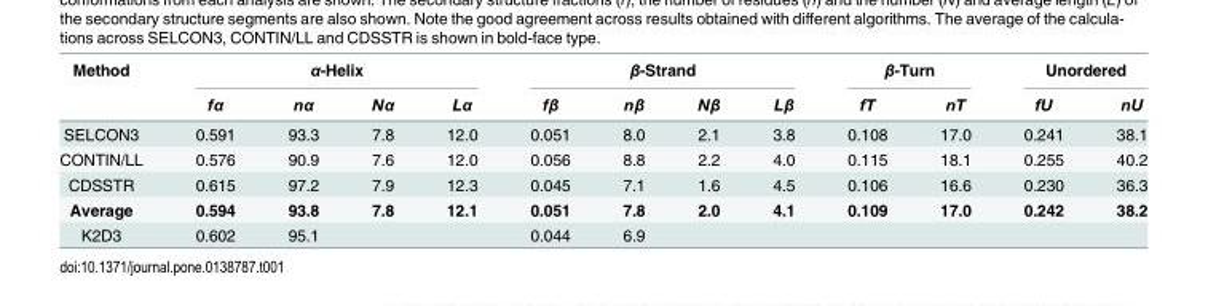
<table><thead><tr><td rowspan="2">Method</td><td colspan="4">α-Helix</td><td colspan="4">β-Strand</td><td colspan="2">β-Turn</td><td colspan="2">Unordered</td></tr><tr><td>fα</td><td>nα</td><td>Nα</td><td>Lα</td><td>fβ</td><td>nβ</td><td>Nβ</td><td>Lβ</td><td>fT</td><td>nT</td><td>fU</td><td>nU</td></tr></thead><tbody><tr><td>SELCON3</td><td>0.591</td><td>93.3</td><td>7.8</td><td>12.0</td><td>0.051</td><td>8.0</td><td>2.1</td><td>3.8</td><td>0.108</td><td>17.0</td><td>0.241</td><td>38.1</td></tr><tr><td>CONTIN/LL</td><td>0.576</td><td>90.9</td><td>7.6</td><td>12.0</td><td>0.056</td><td>8.8</td><td>2.2</td><td>4.0</td><td>0.115</td><td>18.1</td><td>0.255</td><td>40.2</td></tr><tr><td>CDSSTR</td><td>0.615</td><td>97.2</td><td>7.9</td><td>12.3</td><td>0.045</td><td>7.1</td><td>1.6</td><td>4.5</td><td>0.106</td><td>16.6</td><td>0.230</td><td>36.3</td></tr><tr><td>Average</td><td>0.594</td><td>93.8</td><td>7.8</td><td>12.1</td><td>0.051</td><td>7.8</td><td>2.0</td><td>4.1</td><td>0.109</td><td>17.0</td><td>0.242</td><td>38.2</td></tr><tr><td>K2D3</td><td>0.602</td><td>95.1</td><td></td><td></td><td>0.044</td><td>6.9</td><td></td><td></td><td></td><td></td><td></td><td></td></tr></tbody></table>